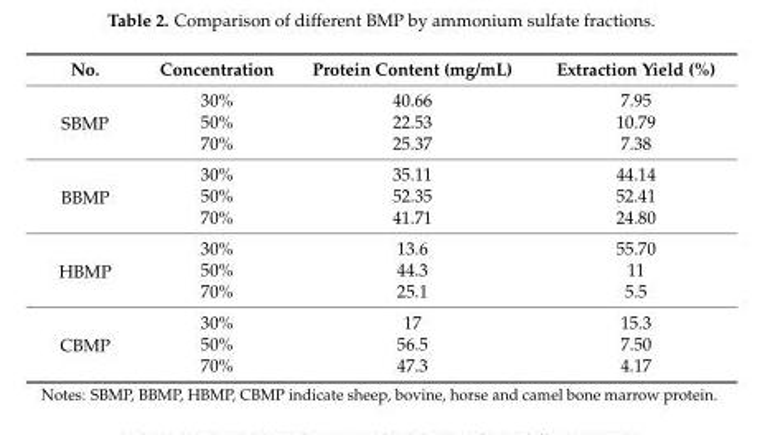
<table><thead><tr><td>No.</td><td>Concentration</td><td>Protein Content (mg/mL)</td><td>Extraction Yield (%)</td></tr></thead><tbody><tr><td rowspan="3">SBMP</td><td>30%</td><td>40.66</td><td>7.95</td></tr><tr><td>50%</td><td>22.53</td><td>10.79</td></tr><tr><td>70%</td><td>25.37</td><td>7.38</td></tr><tr><td rowspan="3">BBMP</td><td>30%</td><td>35.11</td><td>44.14</td></tr><tr><td>50%</td><td>52.35</td><td>52.41</td></tr><tr><td>70%</td><td>41.71</td><td>24.80</td></tr><tr><td rowspan="3">HBMP</td><td>30%</td><td>13.6</td><td>55.70</td></tr><tr><td>50%</td><td>44.3</td><td>11</td></tr><tr><td>70%</td><td>25.1</td><td>5.5</td></tr><tr><td rowspan="3">CBMP</td><td>30%</td><td>17</td><td>15.3</td></tr><tr><td>50%</td><td>56.5</td><td>7.50</td></tr><tr><td>70%</td><td>47.3</td><td>4.17</td></tr></tbody></table>